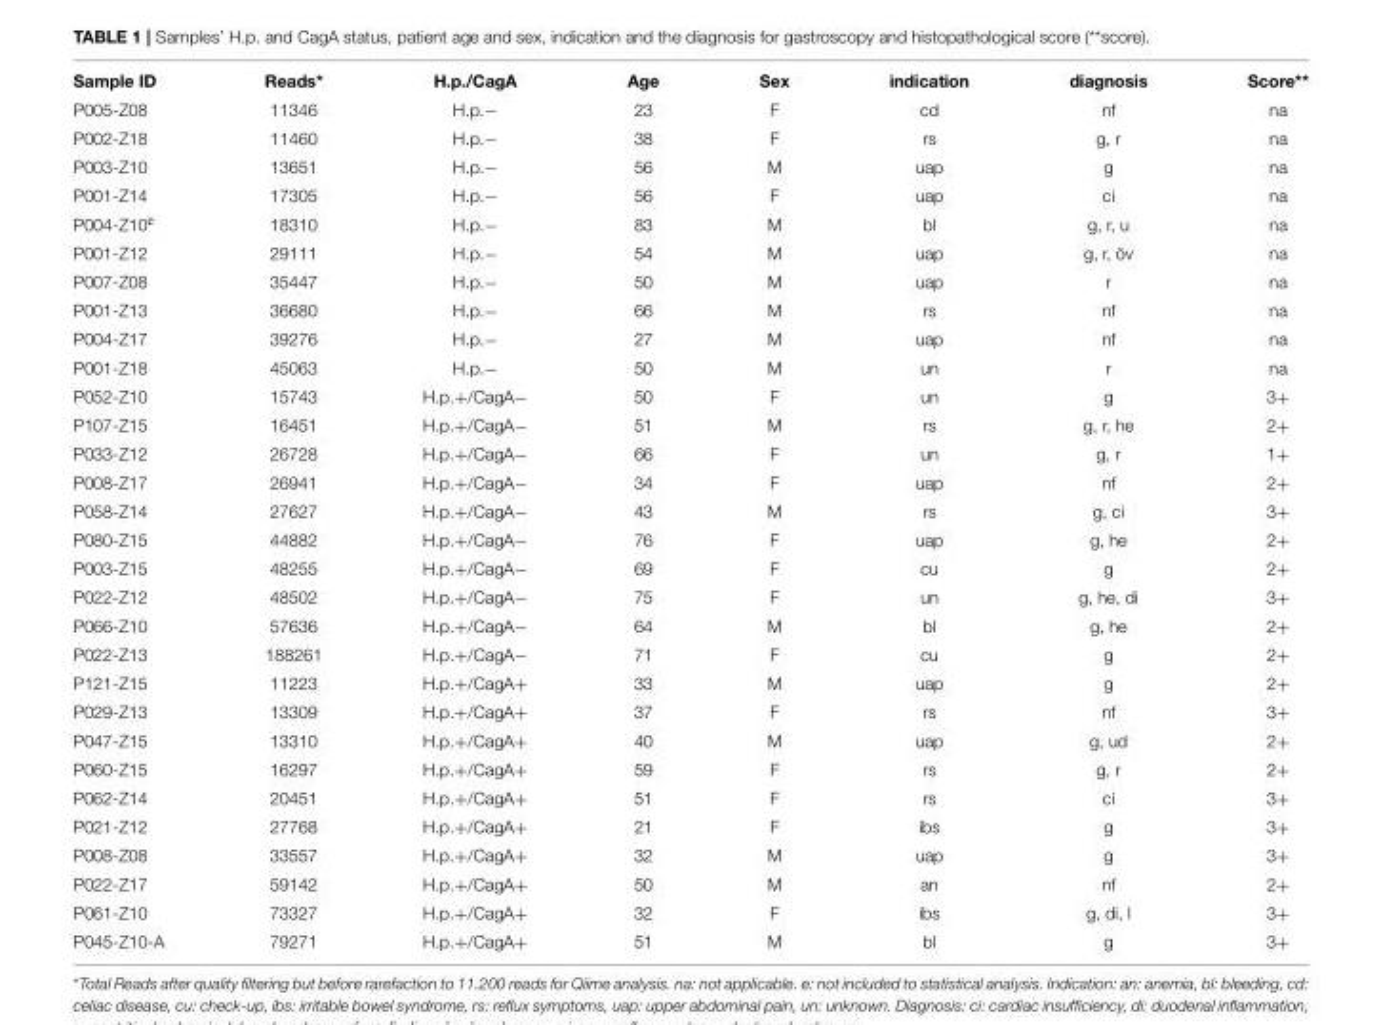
<table><thead><tr><td>Sample ID</td><td>Reads*</td><td>H.p./CagA</td><td>Age</td><td>Sex</td><td>indication</td><td>diagnosis</td><td>Score**</td></tr></thead><tbody><tr><td>P005-Z08</td><td>11346</td><td>H.p.−</td><td>23</td><td>F</td><td>cd</td><td>nf</td><td>na</td></tr><tr><td>P002-Z18</td><td>11460</td><td>H.p.−</td><td>38</td><td>F</td><td>rs</td><td>g, r</td><td>na</td></tr><tr><td>P003-Z10</td><td>13651</td><td>H.p.−</td><td>56</td><td>M</td><td>uap</td><td>g</td><td>na</td></tr><tr><td>P001-Z14</td><td>17305</td><td>H.p.−</td><td>56</td><td>F</td><td>uap</td><td>ci</td><td>na</td></tr><tr><td>P004-Z10<sup>e</sup></td><td>18310</td><td>H.p.−</td><td>83</td><td>M</td><td>bl</td><td>g, r, u</td><td>na</td></tr><tr><td>P001-Z12</td><td>29111</td><td>H.p.−</td><td>54</td><td>M</td><td>uap</td><td>g, r, öv</td><td>na</td></tr><tr><td>P007-Z08</td><td>35447</td><td>H.p.−</td><td>50</td><td>M</td><td>uap</td><td>r</td><td>na</td></tr><tr><td>P001-Z13</td><td>36680</td><td>H.p.−</td><td>66</td><td>M</td><td>rs</td><td>nf</td><td>na</td></tr><tr><td>P004-Z17</td><td>39276</td><td>H.p.−</td><td>27</td><td>M</td><td>uap</td><td>nf</td><td>na</td></tr><tr><td>P001-Z18</td><td>45063</td><td>H.p.−</td><td>50</td><td>M</td><td>un</td><td>r</td><td>na</td></tr><tr><td>P052-Z10</td><td>15743</td><td>H.p.+/CagA−</td><td>50</td><td>F</td><td>un</td><td>g</td><td>3+</td></tr><tr><td>P107-Z15</td><td>16451</td><td>H.p.+/CagA−</td><td>51</td><td>M</td><td>rs</td><td>g, r, he</td><td>2+</td></tr><tr><td>P033-Z12</td><td>26728</td><td>H.p.+/CagA−</td><td>66</td><td>F</td><td>un</td><td>g, r</td><td>1+</td></tr><tr><td>P008-Z17</td><td>26941</td><td>H.p.+/CagA−</td><td>34</td><td>F</td><td>uap</td><td>nf</td><td>2+</td></tr><tr><td>P058-Z14</td><td>27627</td><td>H.p.+/CagA−</td><td>43</td><td>M</td><td>rs</td><td>g, ci</td><td>3+</td></tr><tr><td>P080-Z15</td><td>44882</td><td>H.p.+/CagA−</td><td>76</td><td>F</td><td>uap</td><td>g, he</td><td>2+</td></tr><tr><td>P003-Z15</td><td>48255</td><td>H.p.+/CagA−</td><td>69</td><td>F</td><td>cu</td><td>g</td><td>2+</td></tr><tr><td>P022-Z12</td><td>48502</td><td>H.p.+/CagA−</td><td>75</td><td>F</td><td>un</td><td>g, he, di</td><td>3+</td></tr><tr><td>P066-Z10</td><td>57636</td><td>H.p.+/CagA−</td><td>64</td><td>M</td><td>bl</td><td>g, he</td><td>2+</td></tr><tr><td>P022-Z13</td><td>188261</td><td>H.p.+/CagA−</td><td>71</td><td>F</td><td>cu</td><td>g</td><td>2+</td></tr><tr><td>P121-Z15</td><td>11223</td><td>H.p.+/CagA+</td><td>33</td><td>M</td><td>uap</td><td>g</td><td>2+</td></tr><tr><td>P029-Z13</td><td>13309</td><td>H.p.+/CagA+</td><td>37</td><td>F</td><td>rs</td><td>nf</td><td>3+</td></tr><tr><td>P047-Z15</td><td>13310</td><td>H.p.+/CagA+</td><td>40</td><td>M</td><td>uap</td><td>g, ud</td><td>2+</td></tr><tr><td>P060-Z15</td><td>16297</td><td>H.p.+/CagA+</td><td>59</td><td>F</td><td>rs</td><td>g, r</td><td>2+</td></tr><tr><td>P062-Z14</td><td>20451</td><td>H.p.+/CagA+</td><td>51</td><td>F</td><td>rs</td><td>ci</td><td>3+</td></tr><tr><td>P021-Z12</td><td>27768</td><td>H.p.+/CagA+</td><td>21</td><td>F</td><td>ibs</td><td>g</td><td>3+</td></tr><tr><td>P008-Z08</td><td>33557</td><td>H.p.+/CagA+</td><td>32</td><td>M</td><td>uap</td><td>g</td><td>3+</td></tr><tr><td>P022-Z17</td><td>59142</td><td>H.p.+/CagA+</td><td>50</td><td>M</td><td>an</td><td>nf</td><td>2+</td></tr><tr><td>P061-Z10</td><td>73327</td><td>H.p.+/CagA+</td><td>32</td><td>F</td><td>ibs</td><td>g, di, l</td><td>3+</td></tr><tr><td>P045-Z10-A</td><td>79271</td><td>H.p.+/CagA+</td><td>51</td><td>M</td><td>bl</td><td>g</td><td>3+</td></tr></tbody></table>